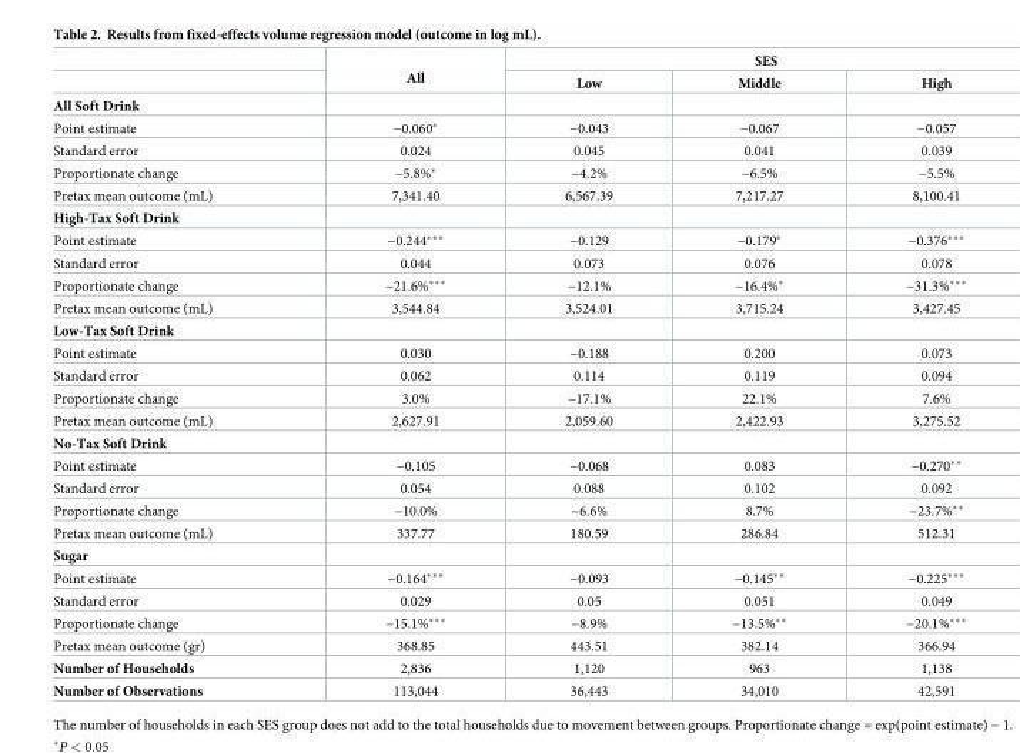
<table><thead><tr><td rowspan="2"></td><td rowspan="2">All</td><td colspan="3">SES</td></tr><tr><td>Low</td><td>Middle</td><td>High</td></tr></thead><tbody><tr><td colspan="5">All Soft Drink</td></tr><tr><td>Point estimate</td><td>−0.060*</td><td>−0.043</td><td>−0.067</td><td>−0.057</td></tr><tr><td>Standard error</td><td>0.024</td><td>0.045</td><td>0.041</td><td>0.039</td></tr><tr><td>Proportionate change</td><td>−5.8%*</td><td>−4.2%</td><td>−6.5%</td><td>−5.5%</td></tr><tr><td>Pretax mean outcome (mL)</td><td>7,341.40</td><td>6,567.39</td><td>7,217.27</td><td>8,100.41</td></tr><tr><td colspan="5">High-Tax Soft Drink</td></tr><tr><td>Point estimate</td><td>−0.244***</td><td>−0.129</td><td>−0.179*</td><td>−0.376***</td></tr><tr><td>Standard error</td><td>0.044</td><td>0.073</td><td>0.076</td><td>0.078</td></tr><tr><td>Proportionate change</td><td>−21.6%***</td><td>−12.1%</td><td>−16.4%*</td><td>−31.3%***</td></tr><tr><td>Pretax mean outcome (mL)</td><td>3,544.84</td><td>3,524.01</td><td>3,715.24</td><td>3,427.45</td></tr><tr><td colspan="5">Low-Tax Soft Drink</td></tr><tr><td>Point estimate</td><td>0.030</td><td>−0.188</td><td>0.200</td><td>0.073</td></tr><tr><td>Standard error</td><td>0.062</td><td>0.114</td><td>0.119</td><td>0.094</td></tr><tr><td>Proportionate change</td><td>3.0%</td><td>−17.1%</td><td>22.1%</td><td>7.6%</td></tr><tr><td>Pretax mean outcome (mL)</td><td>2,627.91</td><td>2,059.60</td><td>2,422.93</td><td>3,275.52</td></tr><tr><td colspan="5">No-Tax Soft Drink</td></tr><tr><td>Point estimate</td><td>−0.105</td><td>−0.068</td><td>0.083</td><td>−0.270**</td></tr><tr><td>Standard error</td><td>0.054</td><td>0.088</td><td>0.102</td><td>0.092</td></tr><tr><td>Proportionate change</td><td>−10.0%</td><td>−6.6%</td><td>8.7%</td><td>−23.7%**</td></tr><tr><td>Pretax mean outcome (mL)</td><td>337.77</td><td>180.59</td><td>286.84</td><td>512.31</td></tr><tr><td colspan="5">Sugar</td></tr><tr><td>Point estimate</td><td>−0.164***</td><td>−0.093</td><td>−0.145**</td><td>−0.225***</td></tr><tr><td>Standard error</td><td>0.029</td><td>0.05</td><td>0.051</td><td>0.049</td></tr><tr><td>Proportionate change</td><td>−15.1%***</td><td>−8.9%</td><td>−13.5%**</td><td>−20.1%***</td></tr><tr><td>Pretax mean outcome (gr)</td><td>368.85</td><td>443.51</td><td>382.14</td><td>366.94</td></tr><tr><td>Number of Households</td><td>2,836</td><td>1,120</td><td>963</td><td>1,138</td></tr><tr><td>Number of Observations</td><td>113,044</td><td>36,443</td><td>34,010</td><td>42,591</td></tr></tbody></table>